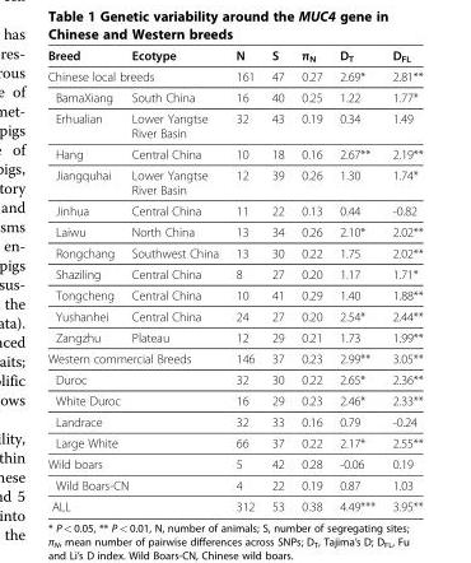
<table><thead><tr><td>Breed</td><td>Ecotype</td><td>N</td><td>S</td><td>π<sub>N</sub></td><td>D<sub>T</sub></td><td>D<sub>FL</sub></td></tr></thead><tbody><tr><td colspan="2">Chinese local breeds</td><td>161</td><td>47</td><td>0.27</td><td>2.69*</td><td>2.81**</td></tr><tr><td>BamaXiang</td><td>South China</td><td>16</td><td>40</td><td>0.25</td><td>1.22</td><td>1.77*</td></tr><tr><td>Erhualian</td><td>Lower Yangtse River Basin</td><td>32</td><td>43</td><td>0.19</td><td>0.34</td><td>1.49</td></tr><tr><td>Hang</td><td>Central China</td><td>10</td><td>18</td><td>0.16</td><td>2.67**</td><td>2.19**</td></tr><tr><td>Jiangquhai</td><td>Lower Yangtse River Basin</td><td>12</td><td>39</td><td>0.26</td><td>1.30</td><td>1.74*</td></tr><tr><td>Jinhua</td><td>Central China</td><td>11</td><td>22</td><td>0.13</td><td>0.44</td><td>-0.82</td></tr><tr><td>Laiwu</td><td>North China</td><td>13</td><td>34</td><td>0.26</td><td>2.10*</td><td>2.02**</td></tr><tr><td>Rongchang</td><td>Southwest China</td><td>13</td><td>30</td><td>0.22</td><td>1.75</td><td>2.02**</td></tr><tr><td>Shaziling</td><td>Central China</td><td>8</td><td>27</td><td>0.20</td><td>1.17</td><td>1.71*</td></tr><tr><td>Tongcheng</td><td>Central China</td><td>10</td><td>41</td><td>0.29</td><td>1.40</td><td>1.88**</td></tr><tr><td>Yushanhei</td><td>Central China</td><td>24</td><td>27</td><td>0.20</td><td>2.54*</td><td>2.44**</td></tr><tr><td>Zangzhu</td><td>Plateau</td><td>12</td><td>29</td><td>0.21</td><td>1.73</td><td>1.99**</td></tr><tr><td colspan="2">Western commercial Breeds</td><td>146</td><td>37</td><td>0.23</td><td>2.99**</td><td>3.05**</td></tr><tr><td colspan="2">Duroc</td><td>32</td><td>30</td><td>0.22</td><td>2.65*</td><td>2.36**</td></tr><tr><td colspan="2">White Duroc</td><td>16</td><td>29</td><td>0.23</td><td>2.46*</td><td>2.33**</td></tr><tr><td colspan="2">Landrace</td><td>32</td><td>33</td><td>0.16</td><td>0.79</td><td>-0.24</td></tr><tr><td colspan="2">Large White</td><td>66</td><td>37</td><td>0.22</td><td>2.17*</td><td>2.55**</td></tr><tr><td colspan="2">Wild boars</td><td>5</td><td>42</td><td>0.28</td><td>-0.06</td><td>0.19</td></tr><tr><td colspan="2">Wild Boars-CN</td><td>4</td><td>22</td><td>0.19</td><td>0.87</td><td>1.03</td></tr><tr><td colspan="2">ALL</td><td>312</td><td>53</td><td>0.38</td><td>4.49***</td><td>3.95**</td></tr></tbody></table>